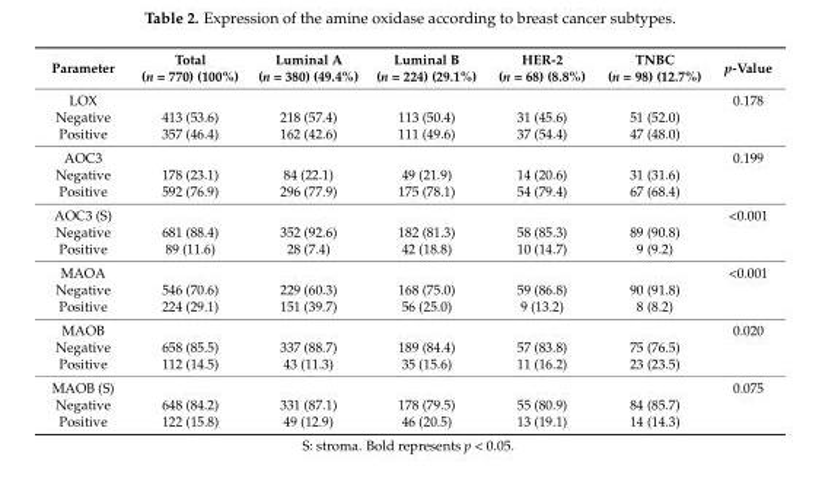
<table><thead><tr><td>Parameter</td><td>Total (n = 770) (100%)</td><td>Luminal A (n = 380) (49.4%)</td><td>Luminal B (n = 224) (29.1%)</td><td>HER-2 (n = 68) (8.8%)</td><td>TNBC (n = 98) (12.7%)</td><td>p-Value</td></tr></thead><tbody><tr><td>LOX</td><td></td><td></td><td></td><td></td><td></td><td>0.178</td></tr><tr><td>Negative</td><td>413 (53.6)</td><td>218 (57.4)</td><td>113 (50.4)</td><td>31 (45.6)</td><td>51 (52.0)</td><td></td></tr><tr><td>Positive</td><td>357 (46.4)</td><td>162 (42.6)</td><td>111 (49.6)</td><td>37 (54.4)</td><td>47 (48.0)</td><td></td></tr><tr><td>AOC3</td><td></td><td></td><td></td><td></td><td></td><td>0.199</td></tr><tr><td>Negative</td><td>178 (23.1)</td><td>84 (22.1)</td><td>49 (21.9)</td><td>14 (20.6)</td><td>31 (31.6)</td><td></td></tr><tr><td>Positive</td><td>592 (76.9)</td><td>296 (77.9)</td><td>175 (78.1)</td><td>54 (79.4)</td><td>67 (68.4)</td><td></td></tr><tr><td>AOC3 (S)</td><td></td><td></td><td></td><td></td><td></td><td>&lt;0.001</td></tr><tr><td>Negative</td><td>681 (88.4)</td><td>352 (92.6)</td><td>182 (81.3)</td><td>58 (85.3)</td><td>89 (90.8)</td><td></td></tr><tr><td>Positive</td><td>89 (11.6)</td><td>28 (7.4)</td><td>42 (18.8)</td><td>10 (14.7)</td><td>9 (9.2)</td><td></td></tr><tr><td>MAOA</td><td></td><td></td><td></td><td></td><td></td><td>&lt;0.001</td></tr><tr><td>Negative</td><td>546 (70.6)</td><td>229 (60.3)</td><td>168 (75.0)</td><td>59 (86.8)</td><td>90 (91.8)</td><td></td></tr><tr><td>Positive</td><td>224 (29.1)</td><td>151 (39.7)</td><td>56 (25.0)</td><td>9 (13.2)</td><td>8 (8.2)</td><td></td></tr><tr><td>MAOB</td><td></td><td></td><td></td><td></td><td></td><td>0.020</td></tr><tr><td>Negative</td><td>658 (85.5)</td><td>337 (88.7)</td><td>189 (84.4)</td><td>57 (83.8)</td><td>75 (76.5)</td><td></td></tr><tr><td>Positive</td><td>112 (14.5)</td><td>43 (11.3)</td><td>35 (15.6)</td><td>11 (16.2)</td><td>23 (23.5)</td><td></td></tr><tr><td>MAOB (S)</td><td></td><td></td><td></td><td></td><td></td><td>0.075</td></tr><tr><td>Negative</td><td>648 (84.2)</td><td>331 (87.1)</td><td>178 (79.5)</td><td>55 (80.9)</td><td>84 (85.7)</td><td></td></tr><tr><td>Positive</td><td>122 (15.8)</td><td>49 (12.9)</td><td>46 (20.5)</td><td>13 (19.1)</td><td>14 (14.3)</td><td></td></tr></tbody></table>